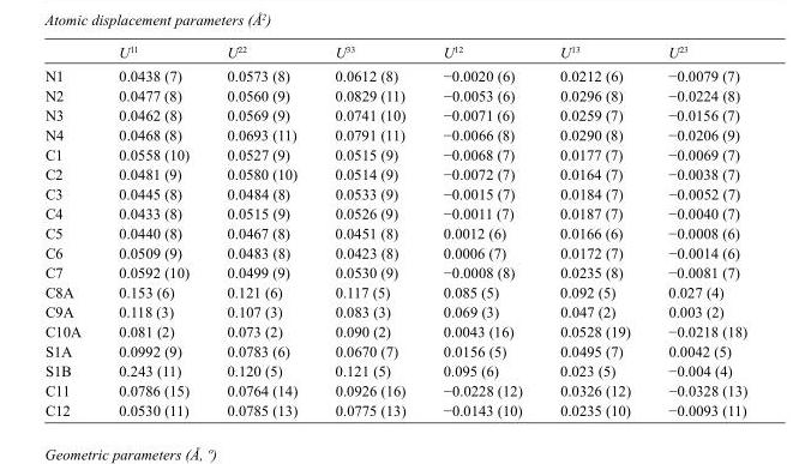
<table><thead><tr><td></td><td>U<sup>11</sup></td><td>U<sup>22</sup></td><td>U<sup>33</sup></td><td>U<sup>12</sup></td><td>U<sup>13</sup></td><td>U<sup>23</sup></td></tr></thead><tbody><tr><td>N1</td><td>0.0438 (7)</td><td>0.0573 (8)</td><td>0.0612 (8)</td><td>−0.0020 (6)</td><td>0.0212 (6)</td><td>−0.0079 (7)</td></tr><tr><td>N2</td><td>0.0477 (8)</td><td>0.0560 (9)</td><td>0.0829 (11)</td><td>−0.0053 (6)</td><td>0.0296 (8)</td><td>−0.0224 (8)</td></tr><tr><td>N3</td><td>0.0462 (8)</td><td>0.0569 (9)</td><td>0.0741 (10)</td><td>−0.0071 (6)</td><td>0.0259 (7)</td><td>−0.0156 (7)</td></tr><tr><td>N4</td><td>0.0468 (8)</td><td>0.0693 (11)</td><td>0.0791 (11)</td><td>−0.0066 (8)</td><td>0.0290 (8)</td><td>−0.0206 (9)</td></tr><tr><td>C1</td><td>0.0558 (10)</td><td>0.0527 (9)</td><td>0.0515 (9)</td><td>−0.0068 (7)</td><td>0.0177 (7)</td><td>−0.0069 (7)</td></tr><tr><td>C2</td><td>0.0481 (9)</td><td>0.0580 (10)</td><td>0.0514 (9)</td><td>−0.0072 (7)</td><td>0.0164 (7)</td><td>−0.0038 (7)</td></tr><tr><td>C3</td><td>0.0445 (8)</td><td>0.0484 (8)</td><td>0.0533 (9)</td><td>−0.0015 (7)</td><td>0.0184 (7)</td><td>−0.0052 (7)</td></tr><tr><td>C4</td><td>0.0433 (8)</td><td>0.0515 (9)</td><td>0.0526 (9)</td><td>−0.0011 (7)</td><td>0.0187 (7)</td><td>−0.0040 (7)</td></tr><tr><td>C5</td><td>0.0440 (8)</td><td>0.0467 (8)</td><td>0.0451 (8)</td><td>0.0012 (6)</td><td>0.0166 (6)</td><td>−0.0008 (6)</td></tr><tr><td>C6</td><td>0.0509 (9)</td><td>0.0483 (8)</td><td>0.0423 (8)</td><td>0.0006 (7)</td><td>0.0172 (7)</td><td>−0.0014 (6)</td></tr><tr><td>C7</td><td>0.0592 (10)</td><td>0.0499 (9)</td><td>0.0530 (9)</td><td>−0.0008 (8)</td><td>0.0235 (8)</td><td>−0.0081 (7)</td></tr><tr><td>C8A</td><td>0.153 (6)</td><td>0.121 (6)</td><td>0.117 (5)</td><td>0.085 (5)</td><td>0.092 (5)</td><td>0.027 (4)</td></tr><tr><td>C9A</td><td>0.118 (3)</td><td>0.107 (3)</td><td>0.083 (3)</td><td>0.069 (3)</td><td>0.047 (2)</td><td>0.003 (2)</td></tr><tr><td>C10A</td><td>0.081 (2)</td><td>0.073 (2)</td><td>0.090 (2)</td><td>0.0043 (16)</td><td>0.0528 (19)</td><td>−0.0218 (18)</td></tr><tr><td>S1A</td><td>0.0992 (9)</td><td>0.0783 (6)</td><td>0.0670 (7)</td><td>0.0156 (5)</td><td>0.0495 (7)</td><td>0.0042 (5)</td></tr><tr><td>S1B</td><td>0.243 (11)</td><td>0.120 (5)</td><td>0.121 (5)</td><td>0.095 (6)</td><td>0.023 (5)</td><td>−0.004 (4)</td></tr><tr><td>C11</td><td>0.0786 (15)</td><td>0.0764 (14)</td><td>0.0926 (16)</td><td>−0.0228 (12)</td><td>0.0326 (12)</td><td>−0.0328 (13)</td></tr><tr><td>C12</td><td>0.0530 (11)</td><td>0.0785 (13)</td><td>0.0775 (13)</td><td>−0.0143 (10)</td><td>0.0235 (10)</td><td>−0.0093 (11)</td></tr></tbody></table>